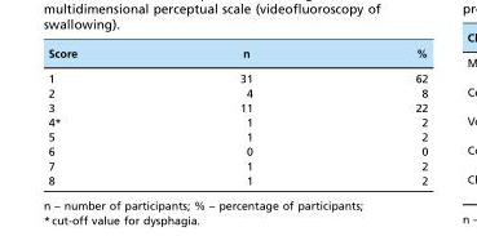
<table><thead><tr><td>Score</td><td>n</td><td>%</td></tr></thead><tbody><tr><td>1</td><td>31</td><td>62</td></tr><tr><td>2</td><td>4</td><td>8</td></tr><tr><td>3</td><td>11</td><td>22</td></tr><tr><td>4*</td><td>1</td><td>2</td></tr><tr><td>5</td><td>1</td><td>2</td></tr><tr><td>6</td><td>0</td><td>0</td></tr><tr><td>7</td><td>1</td><td>2</td></tr><tr><td>8</td><td>1</td><td>2</td></tr></tbody></table>